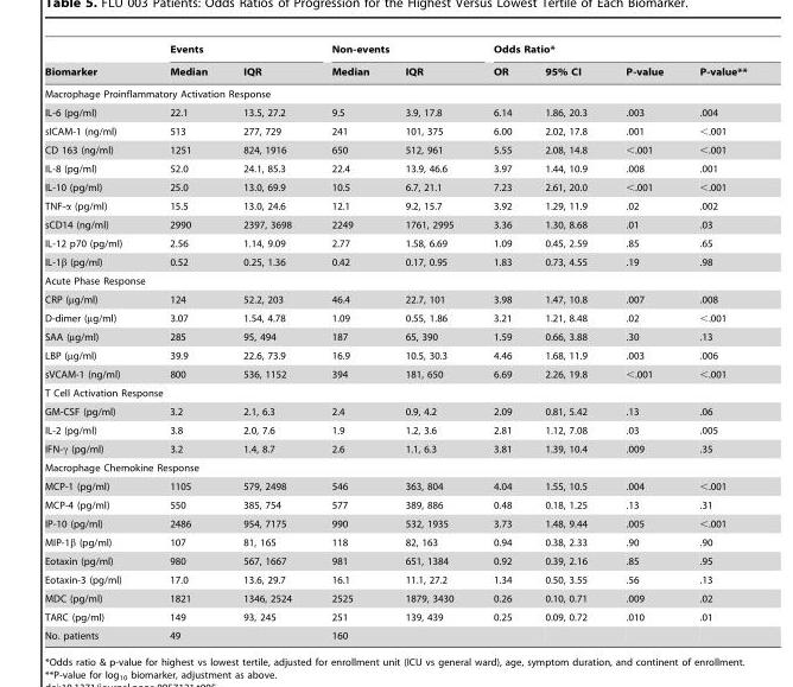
<table><thead><tr><td rowspan="2">Biomarker</td><td colspan="2">Events</td><td colspan="2">Non-events</td><td colspan="4">Odds Ratio*</td></tr><tr><td>Median</td><td>IQR</td><td>Median</td><td>IQR</td><td>OR</td><td>95% CI</td><td>P-value</td><td>P-value**</td></tr></thead><tbody><tr><td colspan="9">Macrophage Proinflammatory Activation Response</td></tr><tr><td>IL-6 (pg/ml)</td><td>22.1</td><td>13.5, 27.2</td><td>9.5</td><td>3.9, 17.8</td><td>6.14</td><td>1.86, 20.3</td><td>.003</td><td>.004</td></tr><tr><td>sICAM-1 (ng/ml)</td><td>513</td><td>277, 729</td><td>241</td><td>101, 375</td><td>6.00</td><td>2.02, 17.8</td><td>.001</td><td>&lt;.001</td></tr><tr><td>CD 163 (ng/ml)</td><td>1251</td><td>824, 1916</td><td>650</td><td>512, 961</td><td>5.55</td><td>2.08, 14.8</td><td>&lt;.001</td><td>&lt;.001</td></tr><tr><td>IL-8 (pg/ml)</td><td>52.0</td><td>24.1, 85.3</td><td>22.4</td><td>13.9, 46.6</td><td>3.97</td><td>1.44, 10.9</td><td>.008</td><td>.001</td></tr><tr><td>IL-10 (pg/ml)</td><td>25.0</td><td>13.0, 69.9</td><td>10.5</td><td>6.7, 21.1</td><td>7.23</td><td>2.61, 20.0</td><td>&lt;.001</td><td>&lt;.001</td></tr><tr><td>TNF-α (pg/ml)</td><td>15.5</td><td>13.0, 24.6</td><td>12.1</td><td>9.2, 15.7</td><td>3.92</td><td>1.29, 11.9</td><td>.02</td><td>.002</td></tr><tr><td>sCD14 (ng/ml)</td><td>2990</td><td>2397, 3698</td><td>2249</td><td>1761, 2995</td><td>3.36</td><td>1.30, 8.68</td><td>.01</td><td>.03</td></tr><tr><td>IL-12 p70 (pg/ml)</td><td>2.56</td><td>1.14, 9.09</td><td>2.77</td><td>1.58, 6.69</td><td>1.09</td><td>0.45, 2.59</td><td>.85</td><td>.65</td></tr><tr><td>IL-1β (pg/ml)</td><td>0.52</td><td>0.25, 1.36</td><td>0.42</td><td>0.17, 0.95</td><td>1.83</td><td>0.73, 4.55</td><td>.19</td><td>.98</td></tr><tr><td colspan="9">Acute Phase Response</td></tr><tr><td>CRP (µg/ml)</td><td>124</td><td>52.2, 203</td><td>46.4</td><td>22.7, 101</td><td>3.98</td><td>1.47, 10.8</td><td>.007</td><td>.008</td></tr><tr><td>D-dimer (µg/ml)</td><td>3.07</td><td>1.54, 4.78</td><td>1.09</td><td>0.55, 1.86</td><td>3.21</td><td>1.21, 8.48</td><td>.02</td><td>&lt;.001</td></tr><tr><td>SAA (µg/ml)</td><td>285</td><td>95, 494</td><td>187</td><td>65, 390</td><td>1.59</td><td>0.66, 3.88</td><td>.30</td><td>.13</td></tr><tr><td>LBP (µg/ml)</td><td>39.9</td><td>22.6, 73.9</td><td>16.9</td><td>10.5, 30.3</td><td>4.46</td><td>1.68, 11.9</td><td>.003</td><td>.006</td></tr><tr><td>sVCAM-1 (ng/ml)</td><td>800</td><td>536, 1152</td><td>394</td><td>181, 650</td><td>6.69</td><td>2.26, 19.8</td><td>&lt;.001</td><td>&lt;.001</td></tr><tr><td colspan="9">T Cell Activation Response</td></tr><tr><td>GM-CSF (pg/ml)</td><td>3.2</td><td>2.1, 6.3</td><td>2.4</td><td>0.9, 4.2</td><td>2.09</td><td>0.81, 5.42</td><td>.13</td><td>.06</td></tr><tr><td>IL-2 (pg/ml)</td><td>3.8</td><td>2.0, 7.6</td><td>1.9</td><td>1.2, 3.6</td><td>2.81</td><td>1.12, 7.08</td><td>.03</td><td>.005</td></tr><tr><td>IFN-γ (pg/ml)</td><td>3.2</td><td>1.4, 8.7</td><td>2.6</td><td>1.1, 6.3</td><td>3.81</td><td>1.39, 10.4</td><td>.009</td><td>.35</td></tr><tr><td colspan="9">Macrophage Chemokine Response</td></tr><tr><td>MCP-1 (pg/ml)</td><td>1105</td><td>579, 2498</td><td>546</td><td>363, 804</td><td>4.04</td><td>1.55, 10.5</td><td>.004</td><td>&lt;.001</td></tr><tr><td>MCP-4 (pg/ml)</td><td>550</td><td>385, 754</td><td>577</td><td>389, 886</td><td>0.48</td><td>0.18, 1.25</td><td>.13</td><td>.31</td></tr><tr><td>IP-10 (pg/ml)</td><td>2486</td><td>954, 7175</td><td>990</td><td>532, 1935</td><td>3.73</td><td>1.48, 9.44</td><td>.005</td><td>&lt;.001</td></tr><tr><td>MIP-1β (pg/ml)</td><td>107</td><td>81, 165</td><td>118</td><td>82, 163</td><td>0.94</td><td>0.38, 2.33</td><td>.90</td><td>.90</td></tr><tr><td>Eotaxin (pg/ml)</td><td>980</td><td>567, 1667</td><td>981</td><td>651, 1384</td><td>0.92</td><td>0.39, 2.16</td><td>.85</td><td>.95</td></tr><tr><td>Eotaxin-3 (pg/ml)</td><td>17.0</td><td>13.6, 29.7</td><td>16.1</td><td>11.1, 27.2</td><td>1.34</td><td>0.50, 3.55</td><td>.56</td><td>.13</td></tr><tr><td>MDC (pg/ml)</td><td>1821</td><td>1346, 2524</td><td>2525</td><td>1879, 3430</td><td>0.26</td><td>0.10, 0.71</td><td>.009</td><td>.02</td></tr><tr><td>TARC (pg/ml)</td><td>149</td><td>93, 245</td><td>251</td><td>139, 439</td><td>0.25</td><td>0.09, 0.72</td><td>.010</td><td>.01</td></tr><tr><td>No. patients</td><td colspan="2">49</td><td colspan="2">160</td><td></td><td></td><td></td><td></td></tr></tbody></table>